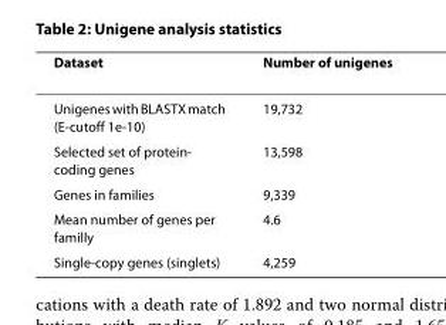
<table><thead><tr><td>Dataset</td><td>Number of unigenes</td></tr></thead><tbody><tr><td>Unigenes with BLASTX match (E-cutoff 1e-10)</td><td>19,732</td></tr><tr><td>Selected set of protein- coding genes</td><td>13,598</td></tr><tr><td>Genes in families</td><td>9,339</td></tr><tr><td>Mean number of genes per familly</td><td>4.6</td></tr><tr><td>Single-copy genes (singlets)</td><td>4,259</td></tr></tbody></table>